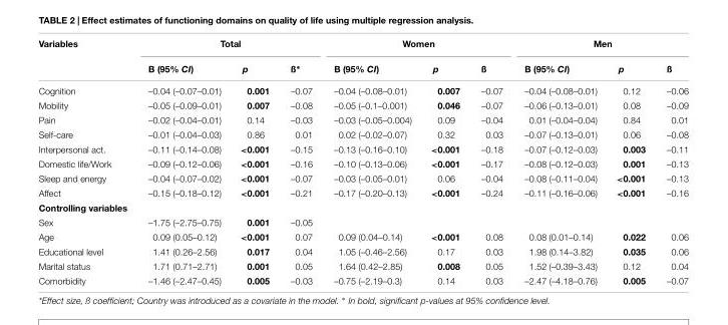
<table><thead><tr><td rowspan="2">Variables</td><td colspan="3">Total</td><td colspan="3">Women</td><td colspan="3">Men</td></tr><tr><td>B (95% CI)</td><td>p</td><td>ß∗</td><td>B (95% CI)</td><td>p</td><td>ß</td><td>B (95% CI)</td><td>p</td><td>ß</td></tr></thead><tbody><tr><td>Cognition</td><td>–0.04 (–0.07–0.01)</td><td>0.001</td><td>–0.07</td><td>–0.04 (–0.08–0.01)</td><td>0.007</td><td>–0.07</td><td>–0.04 (–0.08–0.01)</td><td>0.12</td><td>–0.06</td></tr><tr><td>Mobility</td><td>–0.05 (–0.09–0.01)</td><td>0.007</td><td>–0.08</td><td>–0.05 (–0.1–0.001)</td><td>0.046</td><td>–0.07</td><td>–0.06 (–0.13–0.01)</td><td>0.08</td><td>–0.09</td></tr><tr><td>Pain</td><td>–0.02 (–0.04–0.01)</td><td>0.14</td><td>–0.03</td><td>–0.03 (–0.05–0.004)</td><td>0.09</td><td>–0.04</td><td>0.01 (–0.04–0.04)</td><td>0.84</td><td>0.01</td></tr><tr><td>Self-care</td><td>–0.01 (–0.04–0.03)</td><td>0.86</td><td>0.01</td><td>0.02 (–0.02–0.07)</td><td>0.32</td><td>0.03</td><td>–0.07 (–0.13–0.01)</td><td>0.06</td><td>–0.08</td></tr><tr><td>Interpersonal act.</td><td>–0.11 (–0.14–0.08)</td><td>&lt;0.001</td><td>–0.15</td><td>–0.13 (–0.16–0.10)</td><td>&lt;0.001</td><td>–0.18</td><td>–0.07 (–0.12–0.03)</td><td>0.003</td><td>–0.11</td></tr><tr><td>Domestic life/Work</td><td>–0.09 (–0.12–0.06)</td><td>&lt;0.001</td><td>–0.16</td><td>–0.10 (–0.13–0.06)</td><td>&lt;0.001</td><td>–0.17</td><td>–0.08 (–0.12–0.03)</td><td>0.001</td><td>–0.13</td></tr><tr><td>Sleep and energy</td><td>–0.04 (–0.07–0.02)</td><td>&lt;0.001</td><td>–0.07</td><td>–0.03 (–0.05–0.01)</td><td>0.06</td><td>–0.04</td><td>–0.08 (–0.11–0.04)</td><td>&lt;0.001</td><td>–0.13</td></tr><tr><td>Affect</td><td>–0.15 (–0.18–0.12)</td><td>&lt;0.001</td><td>–0.21</td><td>–0.17 (–0.20–0.13)</td><td>&lt;0.001</td><td>–0.24</td><td>–0.11 (–0.16–0.06)</td><td>&lt;0.001</td><td>–0.16</td></tr><tr><td colspan="10">Controlling variables</td></tr><tr><td>Sex</td><td>–1.75 (–2.75–0.75)</td><td>0.001</td><td>–0.05</td><td></td><td></td><td></td><td></td><td></td><td></td></tr><tr><td>Age</td><td>0.09 (0.05–0.12)</td><td>&lt;0.001</td><td>0.07</td><td>0.09 (0.04–0.14)</td><td>&lt;0.001</td><td>0.08</td><td>0.08 (0.01–0.14)</td><td>0.022</td><td>0.06</td></tr><tr><td>Educational level</td><td>1.41 (0.26–2.56)</td><td>0.017</td><td>0.04</td><td>1.05 (–0.46–2.56)</td><td>0.17</td><td>0.03</td><td>1.98 (0.14–3.82)</td><td>0.035</td><td>0.06</td></tr><tr><td>Marital status</td><td>1.71 (0.71–2.71)</td><td>0.001</td><td>0.05</td><td>1.64 (0.42–2.85)</td><td>0.008</td><td>0.05</td><td>1.52 (–0.39–3.43)</td><td>0.12</td><td>0.04</td></tr><tr><td>Comorbidity</td><td>–1.46 (–2.47–0.45)</td><td>0.005</td><td>–0.03</td><td>–0.75 (–2.19–0.3)</td><td>0.14</td><td>0.03</td><td>–2.47 (–4.18–0.76)</td><td>0.005</td><td>–0.07</td></tr></tbody></table>